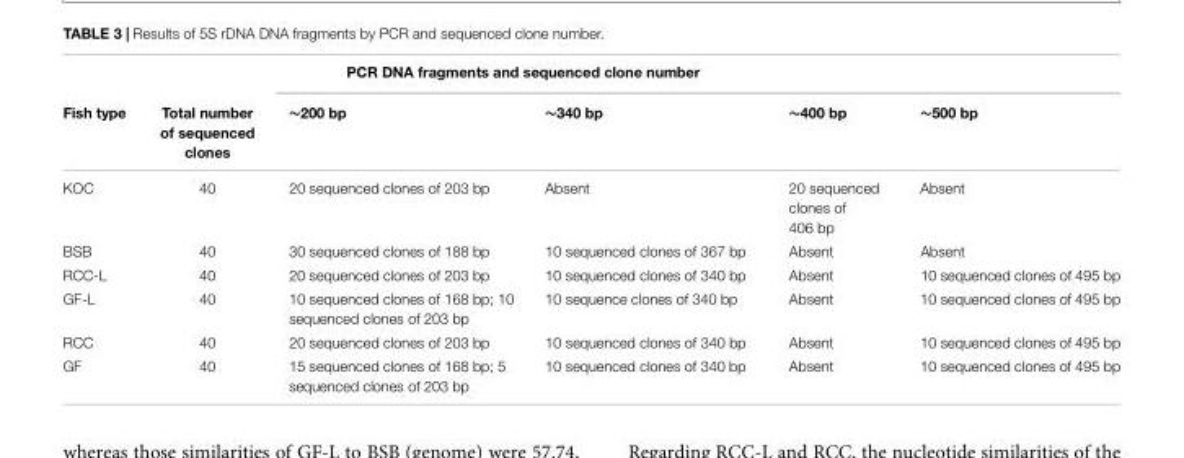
<table><thead><tr><td rowspan="2">Fish type</td><td rowspan="2">Total number of sequenced clones</td><td colspan="2">PCR DNA fragments and sequenced clone number</td><td rowspan="2">∼400 bp</td><td rowspan="2">∼500 bp</td></tr><tr><td>∼200 bp</td><td>∼340 bp</td></tr></thead><tbody><tr><td>KOC</td><td>40</td><td>20 sequenced clones of 203 bp</td><td>Absent</td><td>20 sequenced clones of 406 bp</td><td>Absent</td></tr><tr><td>BSB</td><td>40</td><td>30 sequenced clones of 188 bp</td><td>10 sequenced clones of 367 bp</td><td>Absent</td><td>Absent</td></tr><tr><td>RCC-L</td><td>40</td><td>20 sequenced clones of 203 bp</td><td>10 sequenced clones of 340 bp</td><td>Absent</td><td>10 sequenced clones of 495 bp</td></tr><tr><td>GF-L</td><td>40</td><td>10 sequenced clones of 168 bp; 10 sequenced clones of 203 bp</td><td>10 sequence clones of 340 bp</td><td>Absent</td><td>10 sequenced clones of 495 bp</td></tr><tr><td>RCC</td><td>40</td><td>20 sequenced clones of 203 bp</td><td>10 sequenced clones of 340 bp</td><td>Absent</td><td>10 sequenced clones of 495 bp</td></tr><tr><td>GF</td><td>40</td><td>15 sequenced clones of 168 bp; 5 sequenced clones of 203 bp</td><td>10 sequenced clones of 340 bp</td><td>Absent</td><td>10 sequenced clones of 495 bp</td></tr></tbody></table>